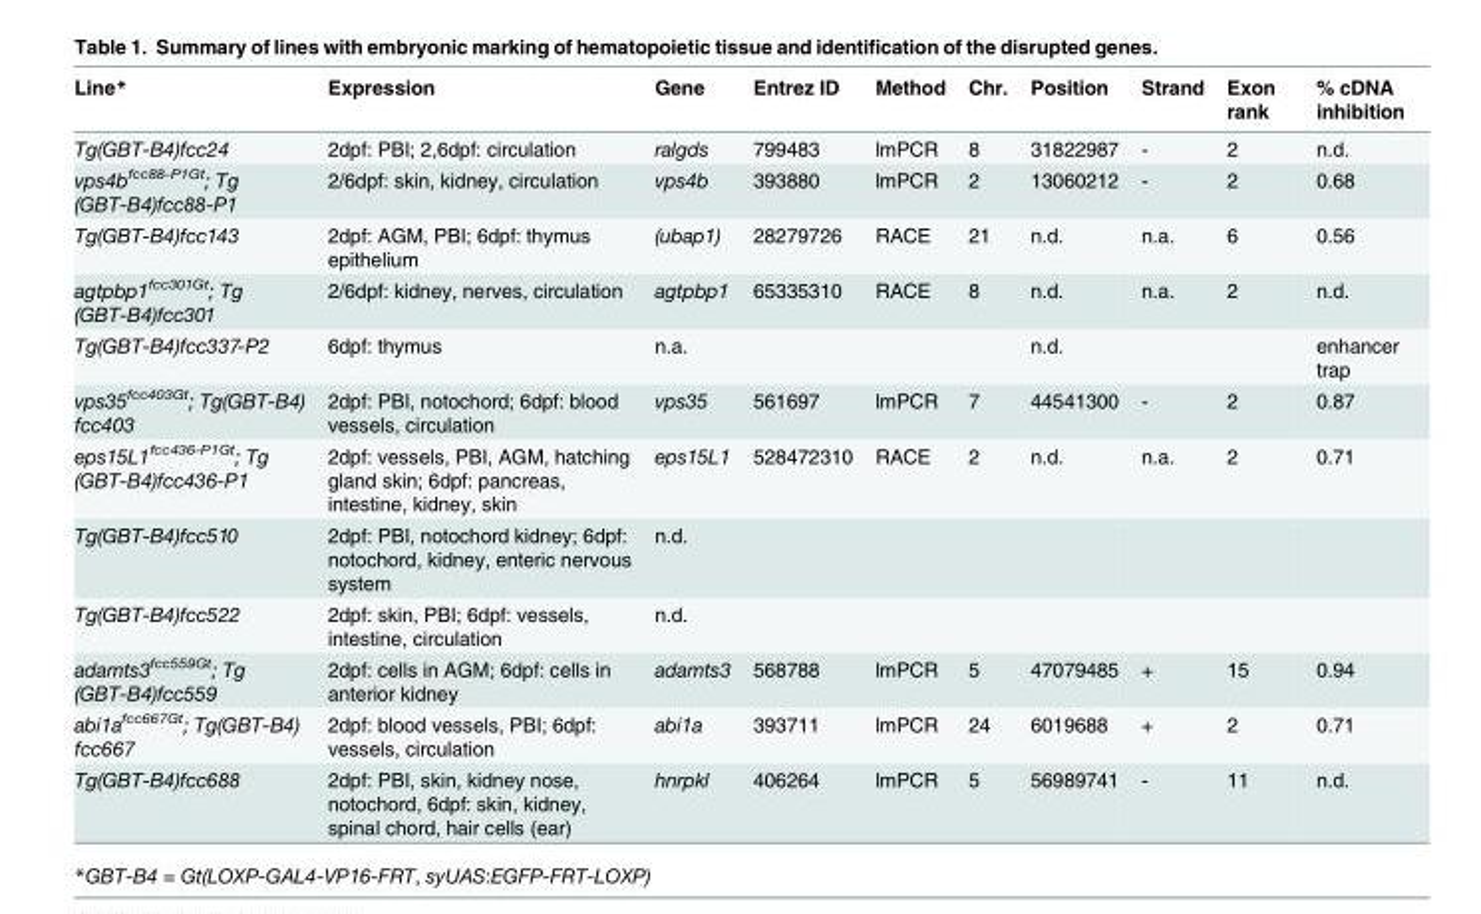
<table><thead><tr><td>Line*</td><td>Expression</td><td>Gene</td><td>Entrez ID</td><td>Method</td><td>Chr.</td><td>Position</td><td>Strand</td><td>Exon rank</td><td>% cDNA inhibition</td></tr></thead><tbody><tr><td>Tg(GBT-B4)fcc24</td><td>2dpf: PBI; 2,6dpf: circulation</td><td>ralgds</td><td>799483</td><td>lmPCR</td><td>8</td><td>31822987</td><td>-</td><td>2</td><td>n.d.</td></tr><tr><td>vps4b<sup>fcc88-P1Gt</sup>; Tg (GBT-B4)fcc88-P1</td><td>2/6dpf: skin, kidney, circulation</td><td>vps4b</td><td>393880</td><td>lmPCR</td><td>2</td><td>13060212</td><td>-</td><td>2</td><td>0.68</td></tr><tr><td>Tg(GBT-B4)fcc143</td><td>2dpf: AGM, PBI; 6dpf: thymus epithelium</td><td>(ubap1)</td><td>28279726</td><td>RACE</td><td>21</td><td>n.d.</td><td>n.a.</td><td>6</td><td>0.56</td></tr><tr><td>agtpbp1<sup>fcc301Gt</sup>; Tg (GBT-B4)fcc301</td><td>2/6dpf: kidney, nerves, circulation</td><td>agtpbp1</td><td>65335310</td><td>RACE</td><td>8</td><td>n.d.</td><td>n.a.</td><td>2</td><td>n.d.</td></tr><tr><td>Tg(GBT-B4)fcc337-P2</td><td>6dpf: thymus</td><td>n.a.</td><td></td><td></td><td></td><td>n.d.</td><td></td><td></td><td>enhancer trap</td></tr><tr><td>vps35<sup>fcc403Gt</sup>; Tg(GBT-B4) fcc403</td><td>2dpf: PBI, notochord; 6dpf: blood vessels, circulation</td><td>vps35</td><td>561697</td><td>lmPCR</td><td>7</td><td>44541300</td><td>-</td><td>2</td><td>0.87</td></tr><tr><td>eps15L1<sup>fcc436-P1Gt</sup>; Tg (GBT-B4)fcc436-P1</td><td>2dpf: vessels, PBI, AGM, hatching gland skin; 6dpf: pancreas, intestine, kidney, skin</td><td>eps15L1</td><td>528472310</td><td>RACE</td><td>2</td><td>n.d.</td><td>n.a.</td><td>2</td><td>0.71</td></tr><tr><td>Tg(GBT-B4)fcc510</td><td>2dpf: PBI, notochord kidney; 6dpf: notochord, kidney, enteric nervous system</td><td>n.d.</td><td></td><td></td><td></td><td></td><td></td><td></td><td></td></tr><tr><td>Tg(GBT-B4)fcc522</td><td>2dpf: skin, PBI; 6dpf: vessels, intestine, circulation</td><td>n.d.</td><td></td><td></td><td></td><td></td><td></td><td></td><td></td></tr><tr><td>adamts3<sup>fcc559Gt</sup>; Tg (GBT-B4)fcc559</td><td>2dpf: cells in AGM; 6dpf: cells in anterior kidney</td><td>adamts3</td><td>568788</td><td>lmPCR</td><td>5</td><td>47079485</td><td>+</td><td>15</td><td>0.94</td></tr><tr><td>abi1a<sup>fcc667Gt</sup>; Tg(GBT-B4) fcc667</td><td>2dpf: blood vessels, PBI; 6dpf: vessels, circulation</td><td>abi1a</td><td>393711</td><td>lmPCR</td><td>24</td><td>6019688</td><td>+</td><td>2</td><td>0.71</td></tr><tr><td>Tg(GBT-B4)fcc688</td><td>2dpf: PBI, skin, kidney nose, notochord, 6dpf: skin, kidney, spinal chord, hair cells (ear)</td><td>hnrpkl</td><td>406264</td><td>lmPCR</td><td>5</td><td>56989741</td><td>-</td><td>11</td><td>n.d.</td></tr></tbody></table>